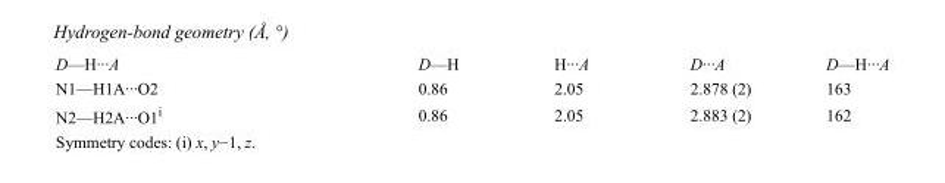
<table><tbody><tr><td>D—H···A</td><td>D—H</td><td>H···A</td><td>D···A</td><td>D—H···A</td></tr><tr><td>N1—H1A···O2</td><td>0.86</td><td>2.05</td><td>2.878 (2)</td><td>163</td></tr><tr><td>N2—H2A···O1<sup>i</sup></td><td>0.86</td><td>2.05</td><td>2.883 (2)</td><td>162</td></tr></tbody></table>